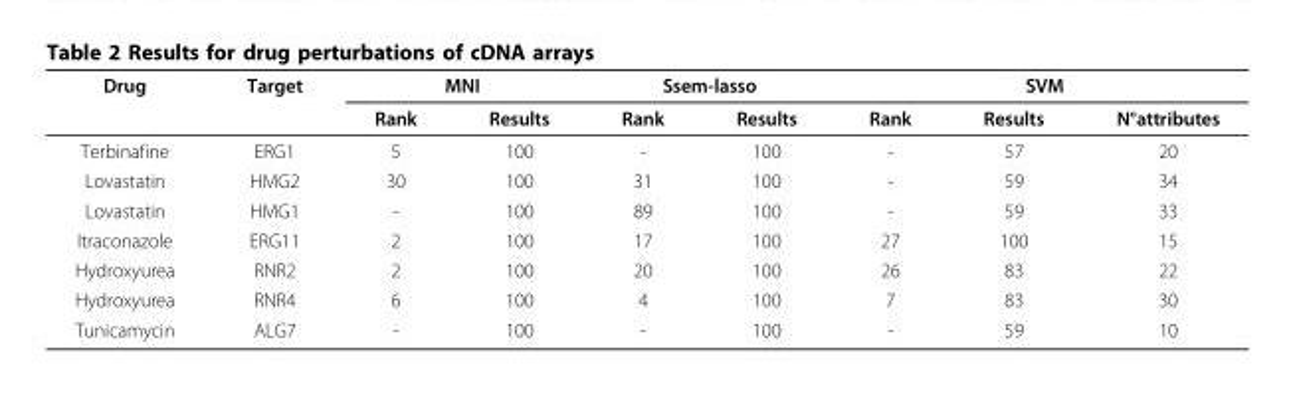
<table><thead><tr><td rowspan="2">Drug</td><td rowspan="2">Target</td><td colspan="2">MNI</td><td colspan="2">Ssem-lasso</td><td colspan="3">SVM</td></tr><tr><td>Rank</td><td>Results</td><td>Rank</td><td>Results</td><td>Rank</td><td>Results</td><td>N°attributes</td></tr></thead><tbody><tr><td>Terbinafine</td><td>ERG1</td><td>5</td><td>100</td><td>-</td><td>100</td><td>-</td><td>57</td><td>20</td></tr><tr><td>Lovastatin</td><td>HMG2</td><td>30</td><td>100</td><td>31</td><td>100</td><td>-</td><td>59</td><td>34</td></tr><tr><td>Lovastatin</td><td>HMG1</td><td>-</td><td>100</td><td>89</td><td>100</td><td>-</td><td>59</td><td>33</td></tr><tr><td>Itraconazole</td><td>ERG11</td><td>2</td><td>100</td><td>17</td><td>100</td><td>27</td><td>100</td><td>15</td></tr><tr><td>Hydroxyurea</td><td>RNR2</td><td>2</td><td>100</td><td>20</td><td>100</td><td>26</td><td>83</td><td>22</td></tr><tr><td>Hydroxyurea</td><td>RNR4</td><td>6</td><td>100</td><td>4</td><td>100</td><td>7</td><td>83</td><td>30</td></tr><tr><td>Tunicamycin</td><td>ALG7</td><td>-</td><td>100</td><td>-</td><td>100</td><td>-</td><td>59</td><td>10</td></tr></tbody></table>